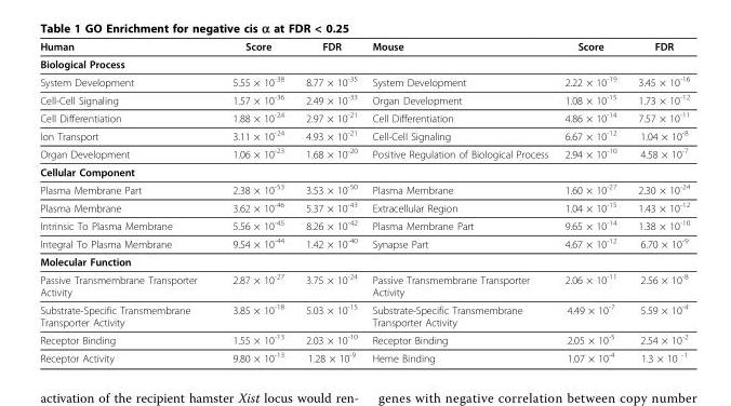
<table><thead><tr><td>Human</td><td>Score</td><td>FDR</td><td>Mouse</td><td>Score</td><td>FDR</td></tr></thead><tbody><tr><td colspan="6">Biological Process</td></tr><tr><td>System Development</td><td>5.55 × 10<sup>-38</sup></td><td>8.77 × 10<sup>-35</sup></td><td>System Development</td><td>2.22 × 10<sup>-19</sup></td><td>3.45 × 10<sup>-16</sup></td></tr><tr><td>Cell-Cell Signaling</td><td>1.57 × 10<sup>-36</sup></td><td>2.49 × 10<sup>-33</sup></td><td>Organ Development</td><td>1.08 × 10<sup>-15</sup></td><td>1.73 × 10<sup>-12</sup></td></tr><tr><td>Cell Differentiation</td><td>1.88 × 10<sup>-24</sup></td><td>2.97 × 10<sup>-21</sup></td><td>Cell Differentiation</td><td>4.86 × 10<sup>-14</sup></td><td>7.57 × 10<sup>-11</sup></td></tr><tr><td>Ion Transport</td><td>3.11 × 10<sup>-24</sup></td><td>4.93 × 10<sup>-21</sup></td><td>Cell-Cell Signaling</td><td>6.67 × 10<sup>-12</sup></td><td>1.04 × 10<sup>-8</sup></td></tr><tr><td>Organ Development</td><td>1.06 × 10<sup>-23</sup></td><td>1.68 × 10<sup>-20</sup></td><td>Positive Regulation of Biological Process</td><td>2.94 × 10<sup>-10</sup></td><td>4.58 × 10<sup>-7</sup></td></tr><tr><td colspan="6">Cellular Component</td></tr><tr><td>Plasma Membrane Part</td><td>2.38 × 10<sup>-53</sup></td><td>3.53 × 10<sup>-50</sup></td><td>Plasma Membrane</td><td>1.60 × 10<sup>-27</sup></td><td>2.30 × 10<sup>-24</sup></td></tr><tr><td>Plasma Membrane</td><td>3.62 × 10<sup>-46</sup></td><td>5.37 × 10<sup>-43</sup></td><td>Extracellular Region</td><td>1.04 × 10<sup>-15</sup></td><td>1.43 × 10<sup>-12</sup></td></tr><tr><td>Intrinsic To Plasma Membrane</td><td>5.56 × 10<sup>-45</sup></td><td>8.26 × 10<sup>-42</sup></td><td>Plasma Membrane Part</td><td>9.65 × 10<sup>-14</sup></td><td>1.38 × 10<sup>-10</sup></td></tr><tr><td>Integral To Plasma Membrane</td><td>9.54 × 10<sup>-44</sup></td><td>1.42 × 10<sup>-40</sup></td><td>Synapse Part</td><td>4.67 × 10<sup>-12</sup></td><td>6.70 × 10<sup>-9</sup></td></tr><tr><td colspan="6">Molecular Function</td></tr><tr><td>Passive Transmembrane Transporter Activity</td><td>2.87 × 10<sup>-27</sup></td><td>3.75 × 10<sup>-24</sup></td><td>Passive Transmembrane Transporter Activity</td><td>2.06 × 10<sup>-11</sup></td><td>2.56 × 10<sup>-8</sup></td></tr><tr><td>Substrate-Specific Transmembrane Transporter Activity</td><td>3.85 × 10<sup>-18</sup></td><td>5.03 × 10<sup>-15</sup></td><td>Substrate-Specific Transmembrane Transporter Activity</td><td>4.49 × 10<sup>-7</sup></td><td>5.59 × 10<sup>-4</sup></td></tr><tr><td>Receptor Binding</td><td>1.55 × 10<sup>-13</sup></td><td>2.03 × 10<sup>-10</sup></td><td>Receptor Binding</td><td>2.05 × 10<sup>-5</sup></td><td>2.54 × 10<sup>-2</sup></td></tr><tr><td>Receptor Activity</td><td>9.80 × 10<sup>-13</sup></td><td>1.28 × 10<sup>-9</sup></td><td>Heme Binding</td><td>1.07 × 10<sup>-4</sup></td><td>1.3 × 10 <sup>-1</sup></td></tr></tbody></table>